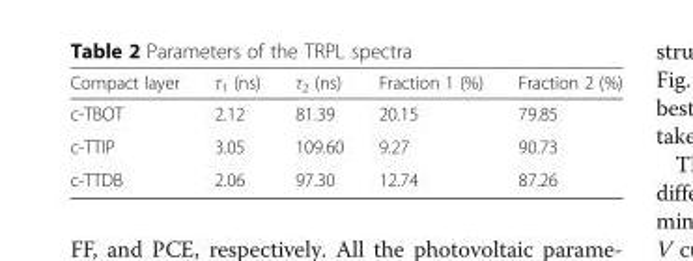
<table><thead><tr><td>Compact layer</td><td>τ<sub>1</sub> (ns)</td><td>τ<sub>2</sub> (ns)</td><td>Fraction 1 (%)</td><td>Fraction 2 (%)</td></tr></thead><tbody><tr><td>c-TBOT</td><td>2.12</td><td>81.39</td><td>20.15</td><td>79.85</td></tr><tr><td>c-TTIP</td><td>3.05</td><td>109.60</td><td>9.27</td><td>90.73</td></tr><tr><td>c-TTDB</td><td>2.06</td><td>97.30</td><td>12.74</td><td>87.26</td></tr></tbody></table>